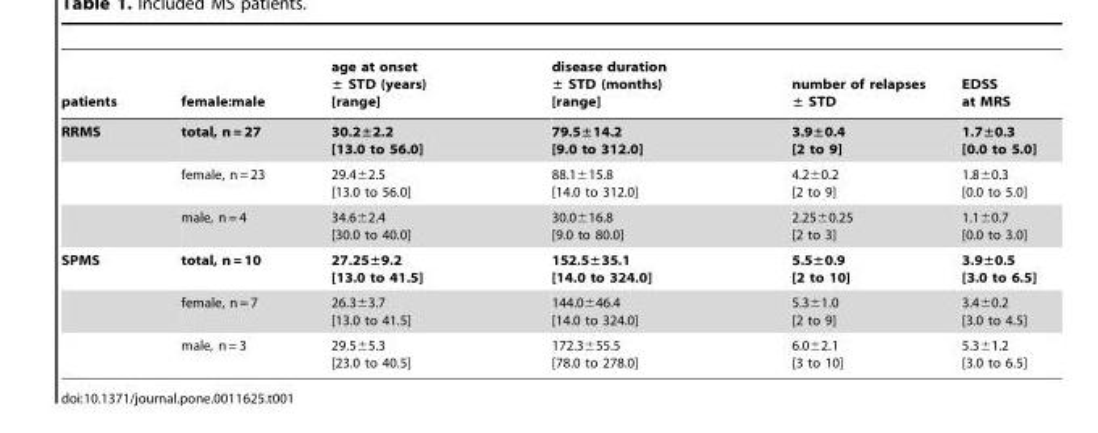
<table><thead><tr><td>patients</td><td>female:male</td><td>age at onset ± STD (years) [range]</td><td>disease duration ± STD (months) [range]</td><td>number of relapses ± STD</td><td>EDSS at MRS</td></tr></thead><tbody><tr><td rowspan="3">RRMS</td><td>total, n = 27</td><td>30.2±2.2 [13.0 to 56.0]</td><td>79.5±14.2 [9.0 to 312.0]</td><td>3.9±0.4 [2 to 9]</td><td>1.7±0.3 [0.0 to 5.0]</td></tr><tr><td>female, n = 23</td><td>29.4±2.5 [13.0 to 56.0]</td><td>88.1±15.8 [14.0 to 312.0]</td><td>4.2±0.2 [2 to 9]</td><td>1.8±0.3 [0.0 to 5.0]</td></tr><tr><td>male, n = 4</td><td>34.6±2.4 [30.0 to 40.0]</td><td>30.0±16.8 [9.0 to 80.0]</td><td>2.25±0.25 [2 to 3]</td><td>1.1±0.7 [0.0 to 3.0]</td></tr><tr><td rowspan="3">SPMS</td><td>total, n = 10</td><td>27.25±9.2 [13.0 to 41.5]</td><td>152.5±35.1 [14.0 to 324.0]</td><td>5.5±0.9 [2 to 10]</td><td>3.9±0.5 [3.0 to 6.5]</td></tr><tr><td>female, n = 7</td><td>26.3±3.7 [13.0 to 41.5]</td><td>144.0±46.4 [14.0 to 324.0]</td><td>5.3±1.0 [2 to 9]</td><td>3.4±0.2 [3.0 to 4.5]</td></tr><tr><td>male, n = 3</td><td>29.5±5.3 [23.0 to 40.5]</td><td>172.3±55.5 [78.0 to 278.0]</td><td>6.0±2.1 [3 to 10]</td><td>5.3±1.2 [3.0 to 6.5]</td></tr></tbody></table>